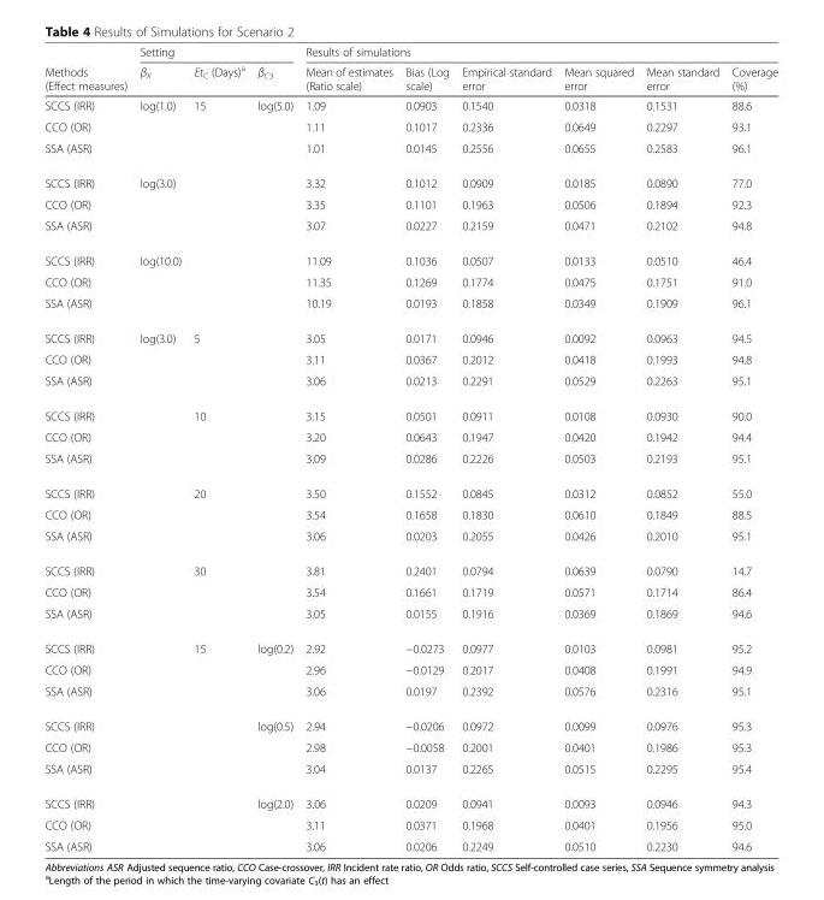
<table><thead><tr><td rowspan="2">Methods (Effect measures)</td><td colspan="3">Setting</td><td colspan="6">Results of simulations</td></tr><tr><td>β<sub>X</sub></td><td>Et<sub>C</sub> (Days)<sup>a</sup></td><td>β<sub>C3</sub></td><td>Mean of estimates (Ratio scale)</td><td>Bias (Log scale)</td><td>Empirical standard error</td><td>Mean squared error</td><td>Mean standard error</td><td>Coverage (%)</td></tr></thead><tbody><tr><td>SCCS (IRR)</td><td>log(1.0)</td><td>15</td><td>log(5.0)</td><td>1.09</td><td>0.0903</td><td>0.1540</td><td>0.0318</td><td>0.1531</td><td>88.6</td></tr><tr><td>CCO (OR)</td><td></td><td></td><td></td><td>1.11</td><td>0.1017</td><td>0.2336</td><td>0.0649</td><td>0.2297</td><td>93.1</td></tr><tr><td>SSA (ASR)</td><td></td><td></td><td></td><td>1.01</td><td>0.0145</td><td>0.2556</td><td>0.0655</td><td>0.2583</td><td>96.1</td></tr><tr><td>SCCS (IRR)</td><td>log(3.0)</td><td></td><td></td><td>3.32</td><td>0.1012</td><td>0.0909</td><td>0.0185</td><td>0.0890</td><td>77.0</td></tr><tr><td>CCO (OR)</td><td></td><td></td><td></td><td>3.35</td><td>0.1101</td><td>0.1963</td><td>0.0506</td><td>0.1894</td><td>92.3</td></tr><tr><td>SSA (ASR)</td><td></td><td></td><td></td><td>3.07</td><td>0.0227</td><td>0.2159</td><td>0.0471</td><td>0.2102</td><td>94.8</td></tr><tr><td>SCCS (IRR)</td><td>log(10.0)</td><td></td><td></td><td>11.09</td><td>0.1036</td><td>0.0507</td><td>0.0133</td><td>0.0510</td><td>46.4</td></tr><tr><td>CCO (OR)</td><td></td><td></td><td></td><td>11.35</td><td>0.1269</td><td>0.1774</td><td>0.0475</td><td>0.1751</td><td>91.0</td></tr><tr><td>SSA (ASR)</td><td></td><td></td><td></td><td>10.19</td><td>0.0193</td><td>0.1858</td><td>0.0349</td><td>0.1909</td><td>96.1</td></tr><tr><td>SCCS (IRR)</td><td>log(3.0)</td><td>5</td><td></td><td>3.05</td><td>0.0171</td><td>0.0946</td><td>0.0092</td><td>0.0963</td><td>94.5</td></tr><tr><td>CCO (OR)</td><td></td><td></td><td></td><td>3.11</td><td>0.0367</td><td>0.2012</td><td>0.0418</td><td>0.1993</td><td>94.8</td></tr><tr><td>SSA (ASR)</td><td></td><td></td><td></td><td>3.06</td><td>0.0213</td><td>0.2291</td><td>0.0529</td><td>0.2263</td><td>95.1</td></tr><tr><td>SCCS (IRR)</td><td></td><td>10</td><td></td><td>3.15</td><td>0.0501</td><td>0.0911</td><td>0.0108</td><td>0.0930</td><td>90.0</td></tr><tr><td>CCO (OR)</td><td></td><td></td><td></td><td>3.20</td><td>0.0643</td><td>0.1947</td><td>0.0420</td><td>0.1942</td><td>94.4</td></tr><tr><td>SSA (ASR)</td><td></td><td></td><td></td><td>3.09</td><td>0.0286</td><td>0.2226</td><td>0.0503</td><td>0.2193</td><td>95.1</td></tr><tr><td>SCCS (IRR)</td><td></td><td>20</td><td></td><td>3.50</td><td>0.1552</td><td>0.0845</td><td>0.0312</td><td>0.0852</td><td>55.0</td></tr><tr><td>CCO (OR)</td><td></td><td></td><td></td><td>3.54</td><td>0.1658</td><td>0.1830</td><td>0.0610</td><td>0.1849</td><td>88.5</td></tr><tr><td>SSA (ASR)</td><td></td><td></td><td></td><td>3.06</td><td>0.0203</td><td>0.2055</td><td>0.0426</td><td>0.2010</td><td>95.1</td></tr><tr><td>SCCS (IRR)</td><td></td><td>30</td><td></td><td>3.81</td><td>0.2401</td><td>0.0794</td><td>0.0639</td><td>0.0790</td><td>14.7</td></tr><tr><td>CCO (OR)</td><td></td><td></td><td></td><td>3.54</td><td>0.1661</td><td>0.1719</td><td>0.0571</td><td>0.1714</td><td>86.4</td></tr><tr><td>SSA (ASR)</td><td></td><td></td><td></td><td>3.05</td><td>0.0155</td><td>0.1916</td><td>0.0369</td><td>0.1869</td><td>94.6</td></tr><tr><td>SCCS (IRR)</td><td></td><td>15</td><td>log(0.2)</td><td>2.92</td><td>−0.0273</td><td>0.0977</td><td>0.0103</td><td>0.0981</td><td>95.2</td></tr><tr><td>CCO (OR)</td><td></td><td></td><td></td><td>2.96</td><td>−0.0129</td><td>0.2017</td><td>0.0408</td><td>0.1991</td><td>94.9</td></tr><tr><td>SSA (ASR)</td><td></td><td></td><td></td><td>3.06</td><td>0.0197</td><td>0.2392</td><td>0.0576</td><td>0.2316</td><td>95.1</td></tr><tr><td>SCCS (IRR)</td><td></td><td></td><td>log(0.5)</td><td>2.94</td><td>−0.0206</td><td>0.0972</td><td>0.0099</td><td>0.0976</td><td>95.3</td></tr><tr><td>CCO (OR)</td><td></td><td></td><td></td><td>2.98</td><td>−0.0058</td><td>0.2001</td><td>0.0401</td><td>0.1986</td><td>95.3</td></tr><tr><td>SSA (ASR)</td><td></td><td></td><td></td><td>3.04</td><td>0.0137</td><td>0.2265</td><td>0.0515</td><td>0.2295</td><td>95.4</td></tr><tr><td>SCCS (IRR)</td><td></td><td></td><td>log(2.0)</td><td>3.06</td><td>0.0209</td><td>0.0941</td><td>0.0093</td><td>0.0946</td><td>94.3</td></tr><tr><td>CCO (OR)</td><td></td><td></td><td></td><td>3.11</td><td>0.0371</td><td>0.1968</td><td>0.0401</td><td>0.1956</td><td>95.0</td></tr><tr><td>SSA (ASR)</td><td></td><td></td><td></td><td>3.06</td><td>0.0206</td><td>0.2249</td><td>0.0510</td><td>0.2230</td><td>94.6</td></tr></tbody></table>